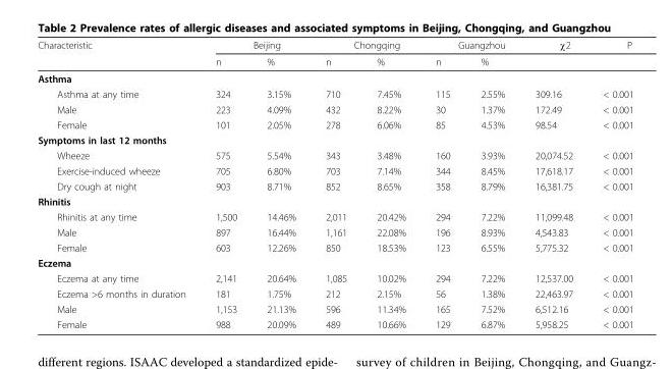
<table><thead><tr><td rowspan="2">Characteristic</td><td colspan="2">Beijing</td><td colspan="2">Chongqing</td><td colspan="2">Guangzhou</td><td rowspan="2">χ2</td><td rowspan="2">P</td></tr><tr><td>n</td><td>%</td><td>n</td><td>%</td><td>n</td><td>%</td></tr></thead><tbody><tr><td colspan="9">Asthma</td></tr><tr><td>Asthma at any time</td><td>324</td><td>3.15%</td><td>710</td><td>7.45%</td><td>115</td><td>2.55%</td><td>309.16</td><td>&lt; 0.001</td></tr><tr><td>Male</td><td>223</td><td>4.09%</td><td>432</td><td>8.22%</td><td>30</td><td>1.37%</td><td>172.49</td><td>&lt; 0.001</td></tr><tr><td>Female</td><td>101</td><td>2.05%</td><td>278</td><td>6.06%</td><td>85</td><td>4.53%</td><td>98.54</td><td>&lt; 0.001</td></tr><tr><td colspan="9">Symptoms in last 12 months</td></tr><tr><td>Wheeze</td><td>575</td><td>5.54%</td><td>343</td><td>3.48%</td><td>160</td><td>3.93%</td><td>20,074.52</td><td>&lt; 0.001</td></tr><tr><td>Exercise-induced wheeze</td><td>705</td><td>6.80%</td><td>703</td><td>7.14%</td><td>344</td><td>8.45%</td><td>17,618.17</td><td>&lt; 0.001</td></tr><tr><td>Dry cough at night</td><td>903</td><td>8.71%</td><td>852</td><td>8.65%</td><td>358</td><td>8.79%</td><td>16,381.75</td><td>&lt; 0.001</td></tr><tr><td colspan="9">Rhinitis</td></tr><tr><td>Rhinitis at any time</td><td>1,500</td><td>14.46%</td><td>2,011</td><td>20.42%</td><td>294</td><td>7.22%</td><td>11,099.48</td><td>&lt; 0.001</td></tr><tr><td>Male</td><td>897</td><td>16.44%</td><td>1,161</td><td>22.08%</td><td>196</td><td>8.93%</td><td>4,543.83</td><td>&lt; 0.001</td></tr><tr><td>Female</td><td>603</td><td>12.26%</td><td>850</td><td>18.53%</td><td>123</td><td>6.55%</td><td>5,775.32</td><td>&lt; 0.001</td></tr><tr><td colspan="9">Eczema</td></tr><tr><td>Eczema at any time</td><td>2,141</td><td>20.64%</td><td>1,085</td><td>10.02%</td><td>294</td><td>7.22%</td><td>12,537.00</td><td>&lt; 0.001</td></tr><tr><td>Eczema &gt;6 months in duration</td><td>181</td><td>1.75%</td><td>212</td><td>2.15%</td><td>56</td><td>1.38%</td><td>22,463.97</td><td>&lt; 0.001</td></tr><tr><td>Male</td><td>1,153</td><td>21.13%</td><td>596</td><td>11.34%</td><td>165</td><td>7.52%</td><td>6,512.16</td><td>&lt; 0.001</td></tr><tr><td>Female</td><td>988</td><td>20.09%</td><td>489</td><td>10.66%</td><td>129</td><td>6.87%</td><td>5,958.25</td><td>&lt; 0.001</td></tr></tbody></table>